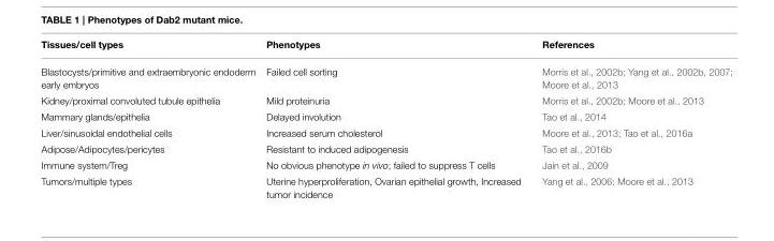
<table><thead><tr><td>Tissues/cell types</td><td>Phenotypes</td><td>References</td></tr></thead><tbody><tr><td>Blastocysts/primitive and extraembryonic endoderm early embryos</td><td>Failed cell sorting</td><td>Morris et al., 2002b; Yang et al., 2002b, 2007; Moore et al., 2013</td></tr><tr><td>Kidney/proximal convoluted tubule epithelia</td><td>Mild proteinuria</td><td>Morris et al., 2002b; Moore et al., 2013</td></tr><tr><td>Mammary glands/epithelia</td><td>Delayed involution</td><td>Tao et al., 2014</td></tr><tr><td>Liver/sinusoidal endothelial cells</td><td>Increased serum cholesterol</td><td>Moore et al., 2013; Tao et al., 2016a</td></tr><tr><td>Adipose/Adipocytes/pericytes</td><td>Resistant to induced adipogenesis</td><td>Tao et al., 2016b</td></tr><tr><td>Immune system/Treg</td><td>No obvious phenotype in vivo; failed to suppress T cells</td><td>Jain et al., 2009</td></tr><tr><td>Tumors/multiple types</td><td>Uterine hyperproliferation, Ovarian epithelial growth, Increased tumor incidence</td><td>Yang et al., 2006; Moore et al., 2013</td></tr></tbody></table>